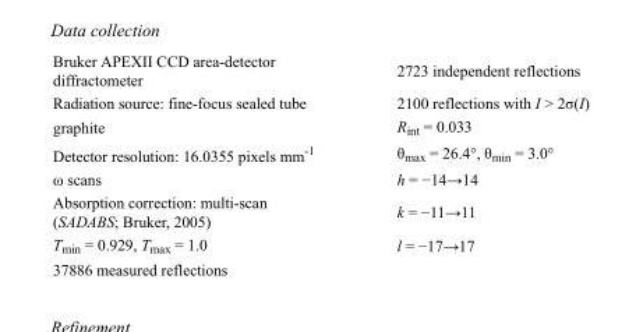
<table><tbody><tr><td>Bruker APEXII CCD area-detector diffractometer</td><td>2723 independent reflections</td></tr><tr><td>Radiation source: fine-focus sealed tube</td><td>2100 reflections with I &gt; 2σ(I)</td></tr><tr><td>graphite</td><td>R<sub>int</sub> = 0.033</td></tr><tr><td>Detector resolution: 16.0355 pixels mm<sup>-1</sup></td><td>θ<sub>max</sub> = 26.4°, θ<sub>min</sub> = 3.0°</td></tr><tr><td>ω scans</td><td>h = −14→14</td></tr><tr><td>Absorption correction: multi-scan (SADABS; Bruker, 2005)</td><td>k = −11→11</td></tr><tr><td>T<sub>min</sub> = 0.929, T<sub>max</sub> = 1.0</td><td>l = −17→17</td></tr><tr><td>37886 measured reflections</td><td></td></tr></tbody></table>